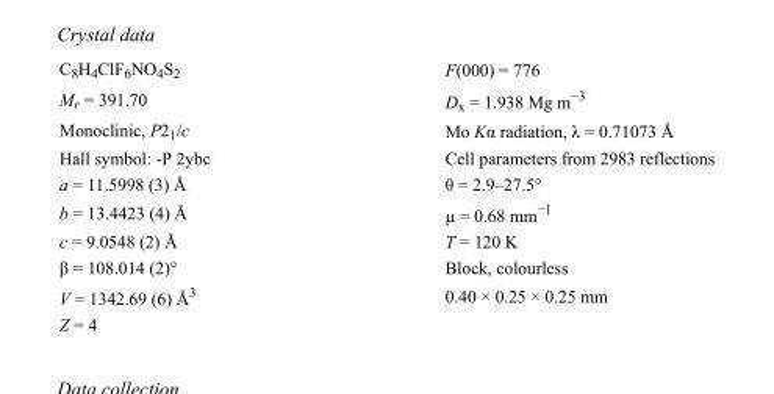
<table><tbody><tr><td>C<sub>8</sub>H<sub>4</sub>ClF<sub>6</sub>NO<sub>4</sub>S<sub>2</sub></td><td>F(000) = 776</td></tr><tr><td>M<sub>r</sub> = 391.70</td><td>D<sub>x</sub> = 1.938 Mg m<sup>−3</sup></td></tr><tr><td>Monoclinic, P2<sub>1</sub>/c</td><td>Mo Kα radiation, λ = 0.71073 Å</td></tr><tr><td>Hall symbol: -P 2ybc</td><td>Cell parameters from 2983 reflections</td></tr><tr><td>a = 11.5998 (3) Å</td><td>θ = 2.9–27.5°</td></tr><tr><td>b = 13.4423 (4) Å</td><td>µ = 0.68 mm<sup>−1</sup></td></tr><tr><td>c = 9.0548 (2) Å</td><td>T = 120 K</td></tr><tr><td>β = 108.014 (2)°</td><td>Block, colourless</td></tr><tr><td>V = 1342.69 (6) Å<sup>3</sup></td><td>0.40 × 0.25 × 0.25 mm</td></tr><tr><td>Z = 4</td><td></td></tr></tbody></table>